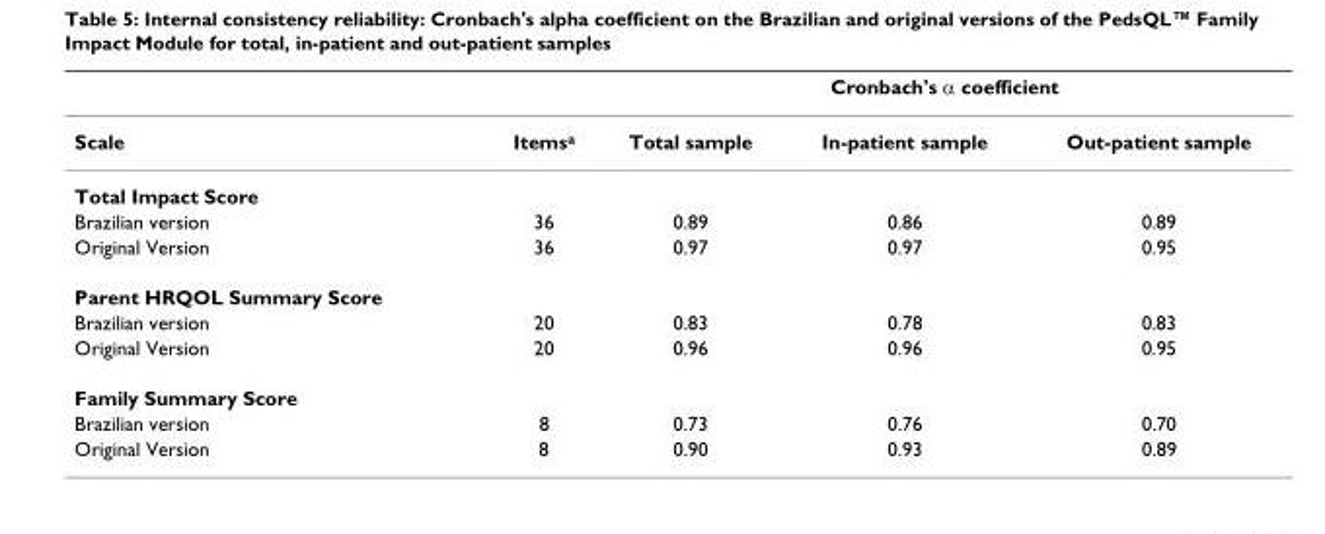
<table><thead><tr><td rowspan="2">Scale</td><td rowspan="2">Items<sup>a</sup></td><td colspan="3">Cronbach&#x27;s α coefficient</td></tr><tr><td>Total sample</td><td>In-patient sample</td><td>Out-patient sample</td></tr></thead><tbody><tr><td colspan="5">Total Impact Score</td></tr><tr><td>Brazilian version</td><td>36</td><td>0.89</td><td>0.86</td><td>0.89</td></tr><tr><td>Original Version</td><td>36</td><td>0.97</td><td>0.97</td><td>0.95</td></tr><tr><td colspan="5">Parent HRQOL Summary Score</td></tr><tr><td>Brazilian version</td><td>20</td><td>0.83</td><td>0.78</td><td>0.83</td></tr><tr><td>Original Version</td><td>20</td><td>0.96</td><td>0.96</td><td>0.95</td></tr><tr><td colspan="5">Family Summary Score</td></tr><tr><td>Brazilian version</td><td>8</td><td>0.73</td><td>0.76</td><td>0.70</td></tr><tr><td>Original Version</td><td>8</td><td>0.90</td><td>0.93</td><td>0.89</td></tr></tbody></table>